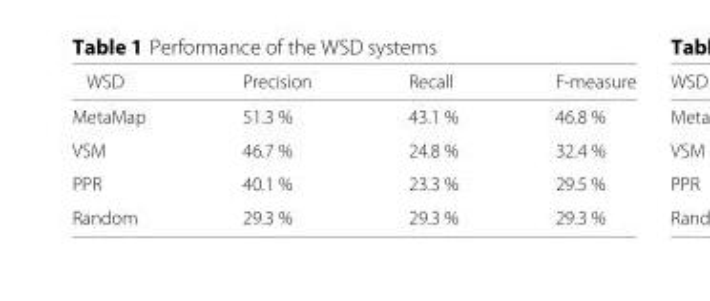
<table><thead><tr><td>WSD</td><td>Precision</td><td>Recall</td><td>F-measure</td></tr></thead><tbody><tr><td>MetaMap</td><td>51.3 %</td><td>43.1 %</td><td>46.8 %</td></tr><tr><td>VSM</td><td>46.7 %</td><td>24.8 %</td><td>32.4 %</td></tr><tr><td>PPR</td><td>40.1 %</td><td>23.3 %</td><td>29.5 %</td></tr><tr><td>Random</td><td>29.3 %</td><td>29.3 %</td><td>29.3 %</td></tr></tbody></table>